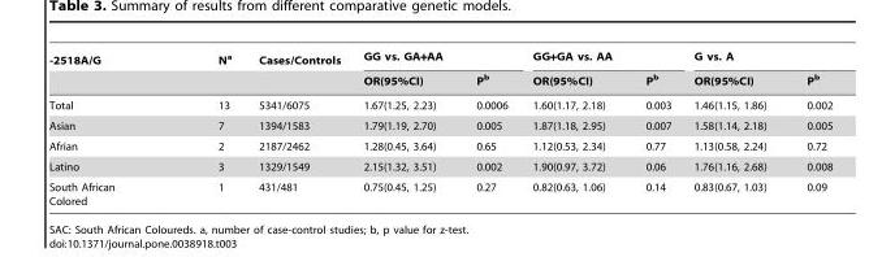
<table><thead><tr><td rowspan="2">-2518A/G</td><td rowspan="2">N<sup>a</sup></td><td rowspan="2">Cases/Controls</td><td colspan="2">GG vs. GA+AA</td><td colspan="2">GG+GA vs. AA</td><td colspan="2">G vs. A</td></tr><tr><td>OR(95%CI)</td><td>P<sup>b</sup></td><td>OR(95%CI)</td><td>P<sup>b</sup></td><td>OR(95%CI)</td><td>P<sup>b</sup></td></tr></thead><tbody><tr><td>Total</td><td>13</td><td>5341/6075</td><td>1.67(1.25, 2.23)</td><td>0.0006</td><td>1.60(1.17, 2.18)</td><td>0.003</td><td>1.46(1.15, 1.86)</td><td>0.002</td></tr><tr><td>Asian</td><td>7</td><td>1394/1583</td><td>1.79(1.19, 2.70)</td><td>0.005</td><td>1.87(1.18, 2.95)</td><td>0.007</td><td>1.58(1.14, 2.18)</td><td>0.005</td></tr><tr><td>Afrian</td><td>2</td><td>2187/2462</td><td>1.28(0.45, 3.64)</td><td>0.65</td><td>1.12(0.53, 2.34)</td><td>0.77</td><td>1.13(0.58, 2.24)</td><td>0.72</td></tr><tr><td>Latino</td><td>3</td><td>1329/1549</td><td>2.15(1.32, 3.51)</td><td>0.002</td><td>1.90(0.97, 3.72)</td><td>0.06</td><td>1.76(1.16, 2.68)</td><td>0.008</td></tr><tr><td>South African Colored</td><td>1</td><td>431/481</td><td>0.75(0.45, 1.25)</td><td>0.27</td><td>0.82(0.63, 1.06)</td><td>0.14</td><td>0.83(0.67, 1.03)</td><td>0.09</td></tr></tbody></table>